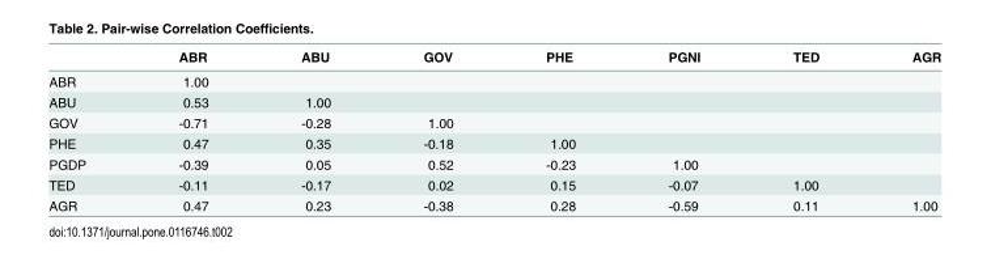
<table><thead><tr><td></td><td>ABR</td><td>ABU</td><td>GOV</td><td>PHE</td><td>PGNI</td><td>TED</td><td>AGR</td></tr></thead><tbody><tr><td>ABR</td><td>1.00</td><td></td><td></td><td></td><td></td><td></td><td></td></tr><tr><td>ABU</td><td>0.53</td><td>1.00</td><td></td><td></td><td></td><td></td><td></td></tr><tr><td>GOV</td><td>-0.71</td><td>-0.28</td><td>1.00</td><td></td><td></td><td></td><td></td></tr><tr><td>PHE</td><td>0.47</td><td>0.35</td><td>-0.18</td><td>1.00</td><td></td><td></td><td></td></tr><tr><td>PGDP</td><td>-0.39</td><td>0.05</td><td>0.52</td><td>-0.23</td><td>1.00</td><td></td><td></td></tr><tr><td>TED</td><td>-0.11</td><td>-0.17</td><td>0.02</td><td>0.15</td><td>-0.07</td><td>1.00</td><td></td></tr><tr><td>AGR</td><td>0.47</td><td>0.23</td><td>-0.38</td><td>0.28</td><td>-0.59</td><td>0.11</td><td>1.00</td></tr></tbody></table>